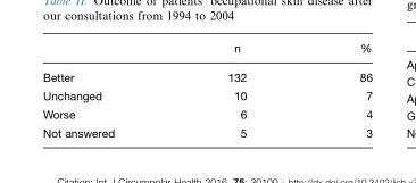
<table><thead><tr><td></td><td>n</td><td>%</td></tr></thead><tbody><tr><td>Better</td><td>132</td><td>86</td></tr><tr><td>Unchanged</td><td>10</td><td>7</td></tr><tr><td>Worse</td><td>6</td><td>4</td></tr><tr><td>Not answered</td><td>5</td><td>3</td></tr></tbody></table>